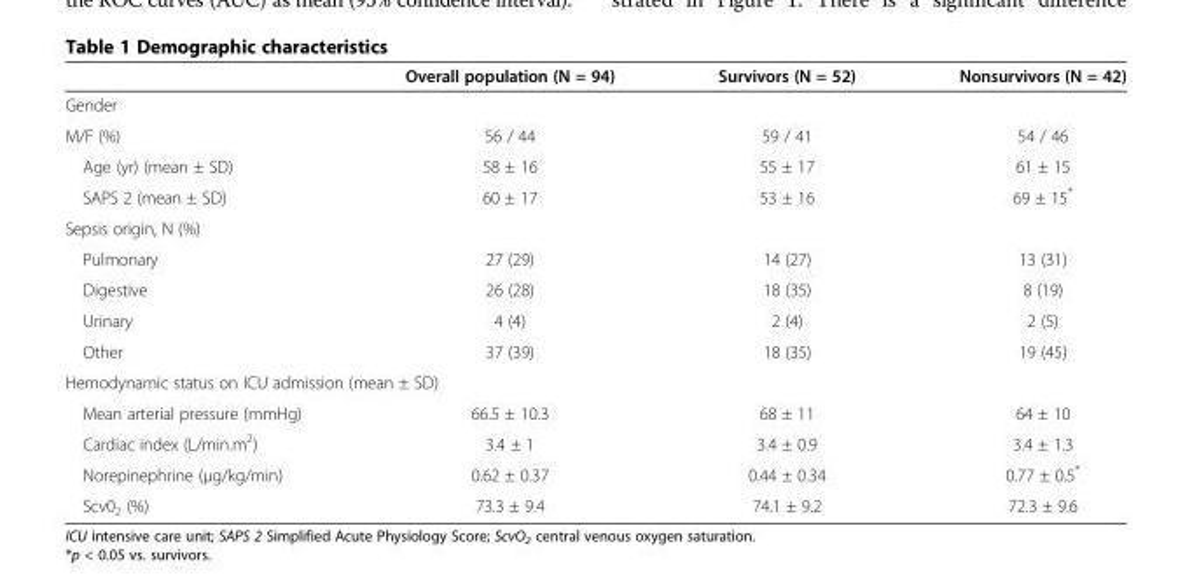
<table><thead><tr><td></td><td>Overall population (N = 94)</td><td>Survivors (N = 52)</td><td>Nonsurvivors (N = 42)</td></tr></thead><tbody><tr><td colspan="4">Gender</td></tr><tr><td>M/F (%)</td><td>56 / 44</td><td>59 / 41</td><td>54 / 46</td></tr><tr><td>Age (yr) (mean ± SD)</td><td>58 ± 16</td><td>55 ± 17</td><td>61 ± 15</td></tr><tr><td>SAPS 2 (mean ± SD)</td><td>60 ± 17</td><td>53 ± 16</td><td>69 ± 15*</td></tr><tr><td colspan="4">Sepsis origin, N (%)</td></tr><tr><td>Pulmonary</td><td>27 (29)</td><td>14 (27)</td><td>13 (31)</td></tr><tr><td>Digestive</td><td>26 (28)</td><td>18 (35)</td><td>8 (19)</td></tr><tr><td>Urinary</td><td>4 (4)</td><td>2 (4)</td><td>2 (5)</td></tr><tr><td>Other</td><td>37 (39)</td><td>18 (35)</td><td>19 (45)</td></tr><tr><td colspan="4">Hemodynamic status on ICU admission (mean ± SD)</td></tr><tr><td>Mean arterial pressure (mmHg)</td><td>66.5 ± 10.3</td><td>68 ± 11</td><td>64 ± 10</td></tr><tr><td>Cardiac index (L/min.m<sup>2</sup>)</td><td>3.4 ± 1</td><td>3.4 ± 0.9</td><td>3.4 ± 1.3</td></tr><tr><td>Norepinephrine (μg/kg/min)</td><td>0.62 ± 0.37</td><td>0.44 ± 0.34</td><td>0.77 ± 0.5*</td></tr><tr><td>Scv0<sub>2</sub> (%)</td><td>73.3 ± 9.4</td><td>74.1 ± 9.2</td><td>72.3 ± 9.6</td></tr></tbody></table>